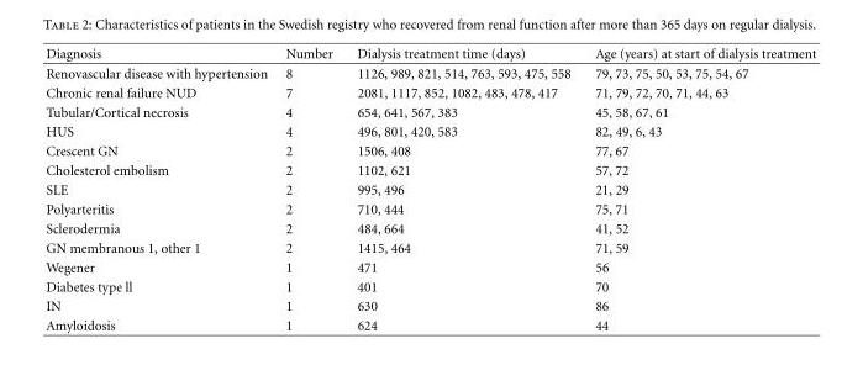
<table><thead><tr><td>Diagnosis</td><td>Number</td><td>Dialysis treatment time (days)</td><td>Age (years) at start of dialysis treatment</td></tr></thead><tbody><tr><td>Renovascular disease with hypertension</td><td>8</td><td>1126, 989, 821, 514, 763, 593, 475, 558</td><td>79, 73, 75, 50, 53, 75, 54, 67</td></tr><tr><td>Chronic renal failure NUD</td><td>7</td><td>2081, 1117, 852, 1082, 483, 478, 417</td><td>71, 79, 72, 70, 71, 44, 63</td></tr><tr><td>Tubular/Cortical necrosis</td><td>4</td><td>654, 641, 567, 383</td><td>45, 58, 67, 61</td></tr><tr><td>HUS</td><td>4</td><td>496, 801, 420, 583</td><td>82, 49, 6, 43</td></tr><tr><td>Crescent GN</td><td>2</td><td>1506, 408</td><td>77, 67</td></tr><tr><td>Cholesterol embolism</td><td>2</td><td>1102, 621</td><td>57, 72</td></tr><tr><td>SLE</td><td>2</td><td>995, 496</td><td>21, 29</td></tr><tr><td>Polyarteritis</td><td>2</td><td>710, 444</td><td>75, 71</td></tr><tr><td>Sclerodermia</td><td>2</td><td>484, 664</td><td>41, 52</td></tr><tr><td>GN membranous 1, other 1</td><td>2</td><td>1415, 464</td><td>71, 59</td></tr><tr><td>Wegener</td><td>1</td><td>471</td><td>56</td></tr><tr><td>Diabetes type ll</td><td>1</td><td>401</td><td>70</td></tr><tr><td>IN</td><td>1</td><td>630</td><td>86</td></tr><tr><td>Amyloidosis</td><td>1</td><td>624</td><td>44</td></tr></tbody></table>